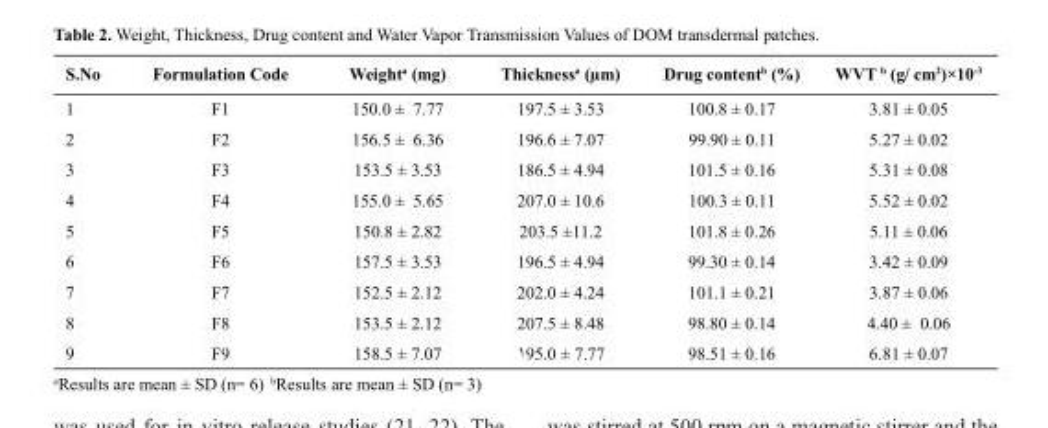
<table><thead><tr><td>S.No</td><td>Formulation Code</td><td>weight<sup>a</sup> (mg)</td><td>Thickness<sup>a</sup> (µm)</td><td>Drug content<sup>b</sup> (%)</td><td>wVT <sup>b</sup> (g/ cm<sup>2</sup>)×10<sup>-3</sup></td></tr></thead><tbody><tr><td>1</td><td>F1</td><td>150.0 ± 7.77</td><td>197.5 ± 3.53</td><td>100.8 ± 0.17</td><td>3.81 ± 0.05</td></tr><tr><td>2</td><td>F2</td><td>156.5 ± 6.36</td><td>196.6 ± 7.07</td><td>99.90 ± 0.11</td><td>5.27 ± 0.02</td></tr><tr><td>3</td><td>F3</td><td>153.5 ± 3.53</td><td>186.5 ± 4.94</td><td>101.5 ± 0.16</td><td>5.31 ± 0.08</td></tr><tr><td>4</td><td>F4</td><td>155.0 ± 5.65</td><td>207.0 ± 10.6</td><td>100.3 ± 0.11</td><td>5.52 ± 0.02</td></tr><tr><td>5</td><td>F5</td><td>150.8 ± 2.82</td><td>203.5 ±11.2</td><td>101.8 ± 0.26</td><td>5.11 ± 0.06</td></tr><tr><td>6</td><td>F6</td><td>157.5 ± 3.53</td><td>196.5 ± 4.94</td><td>99.30 ± 0.14</td><td>3.42 ± 0.09</td></tr><tr><td>7</td><td>F7</td><td>152.5 ± 2.12</td><td>202.0 ± 4.24</td><td>101.1 ± 0.21</td><td>3.87 ± 0.06</td></tr><tr><td>8</td><td>F8</td><td>153.5 ± 2.12</td><td>207.5 ± 8.48</td><td>98.80 ± 0.14</td><td>4.40 ± 0.06</td></tr><tr><td>9</td><td>F9</td><td>158.5 ± 7.07</td><td>195.0 ± 7.77</td><td>98.51 ± 0.16</td><td>6.81 ± 0.07</td></tr></tbody></table>